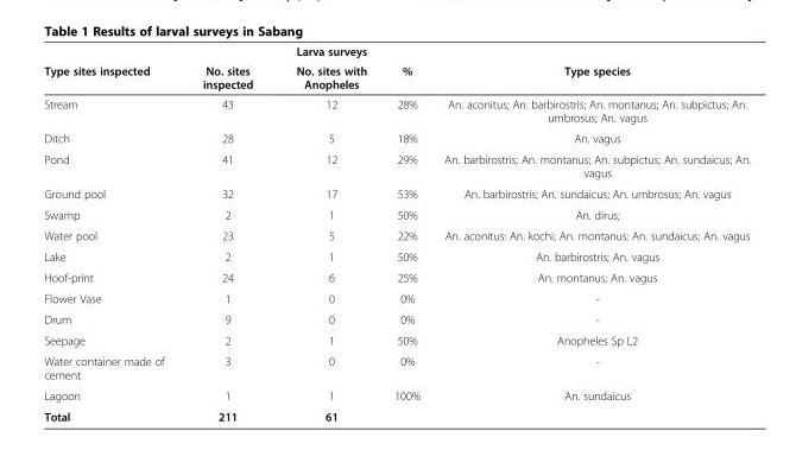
<table><thead><tr><td rowspan="2">Type sites inspected</td><td rowspan="2">No. sites inspected</td><td rowspan="2">Larva surveys No. sites with Anopheles</td><td rowspan="2">%</td><td rowspan="2">Type species</td></tr><tr></tr></thead><tbody><tr><td>Stream</td><td>43</td><td>12</td><td>28%</td><td>An. aconitus; An. barbirostris; An. montanus; An. subpictus; An. umbrosus; An. vagus</td></tr><tr><td>Ditch</td><td>28</td><td>5</td><td>18%</td><td>An. vagus</td></tr><tr><td>Pond</td><td>41</td><td>12</td><td>29%</td><td>An. barbirostris; An. montanus; An. subpictus; An. sundaicus; An. vagus</td></tr><tr><td>Ground pool</td><td>32</td><td>17</td><td>53%</td><td>An. barbirostris; An. sundaicus; An. umbrosus; An. vagus</td></tr><tr><td>Swamp</td><td>2</td><td>1</td><td>50%</td><td>An. dirus;</td></tr><tr><td>Water pool</td><td>23</td><td>5</td><td>22%</td><td>An. aconitus: An. kochi; An. montanus; An. sundaicus; An. vagus</td></tr><tr><td>Lake</td><td>2</td><td>1</td><td>50%</td><td>An. barbirostris; An. vagus</td></tr><tr><td>Hoof-print</td><td>24</td><td>6</td><td>25%</td><td>An. montanus; An. vagus</td></tr><tr><td>Flower Vase</td><td>1</td><td>0</td><td>0%</td><td>-</td></tr><tr><td>Drum</td><td>9</td><td>0</td><td>0%</td><td>-</td></tr><tr><td>Seepage</td><td>2</td><td>1</td><td>50%</td><td>Anopheles Sp L2</td></tr><tr><td>Water container made of cement</td><td>3</td><td>0</td><td>0%</td><td>-</td></tr><tr><td>Lagoon</td><td>1</td><td>1</td><td>100%</td><td>An. sundaicus</td></tr><tr><td>Total</td><td>211</td><td>61</td><td></td><td></td></tr></tbody></table>